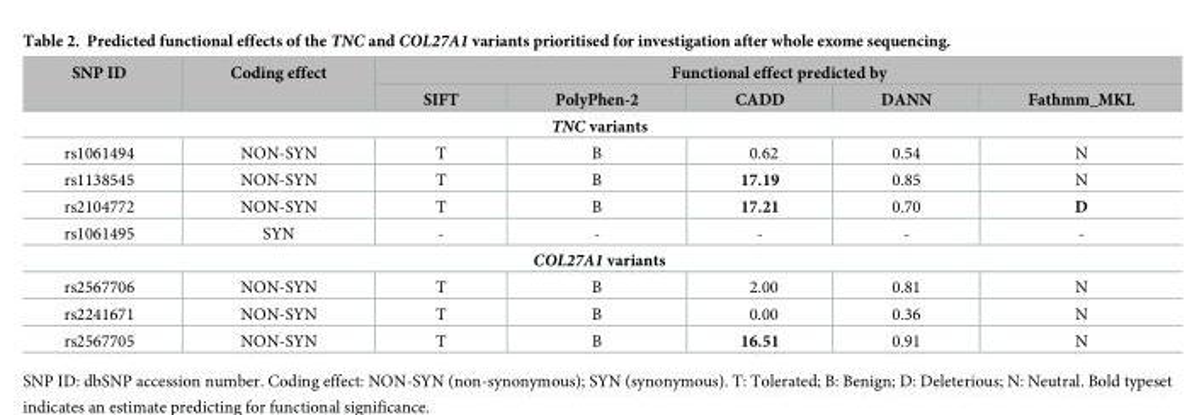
<table><thead><tr><td rowspan="2">SNP ID</td><td rowspan="2">Coding effect</td><td colspan="5">Functional effect predicted by</td></tr><tr><td>SIFT</td><td>PolyPhen-2</td><td>CADD</td><td>DANN</td><td>Fathmm_MKL</td></tr></thead><tbody><tr><td colspan="7">TNC variants</td></tr><tr><td>rs1061494</td><td>NON-SYN</td><td>T</td><td>B</td><td>0.62</td><td>0.54</td><td>N</td></tr><tr><td>rs1138545</td><td>NON-SYN</td><td>T</td><td>B</td><td>17.19</td><td>0.85</td><td>N</td></tr><tr><td>rs2104772</td><td>NON-SYN</td><td>T</td><td>B</td><td>17.21</td><td>0.70</td><td>D</td></tr><tr><td>rs1061495</td><td>SYN</td><td>-</td><td>-</td><td>-</td><td>-</td><td>-</td></tr><tr><td colspan="7">COL27A1 variants</td></tr><tr><td>rs2567706</td><td>NON-SYN</td><td>T</td><td>B</td><td>2.00</td><td>0.81</td><td>N</td></tr><tr><td>rs2241671</td><td>NON-SYN</td><td>T</td><td>B</td><td>0.00</td><td>0.36</td><td>N</td></tr><tr><td>rs2567705</td><td>NON-SYN</td><td>T</td><td>B</td><td>16.51</td><td>0.91</td><td>N</td></tr></tbody></table>